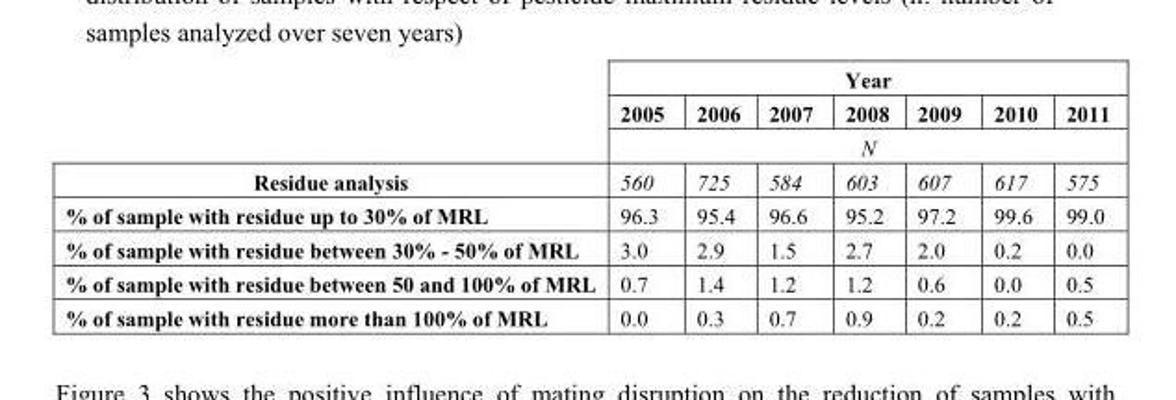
<table><thead><tr><td rowspan="3"></td><td colspan="7">Year</td></tr><tr><td>2005</td><td>2006</td><td>2007</td><td>2008</td><td>2009</td><td>2010</td><td>2011</td></tr><tr><td colspan="7">N</td></tr></thead><tbody><tr><td>Residue analysis</td><td>560</td><td>725</td><td>584</td><td>603</td><td>607</td><td>617</td><td>575</td></tr><tr><td>% of sample with residue up to 30% of MRL</td><td>96.3</td><td>95.4</td><td>96.6</td><td>95.2</td><td>97.2</td><td>99.6</td><td>99.0</td></tr><tr><td>% of sample with residue between 30% - 50% of MRL</td><td>3.0</td><td>2.9</td><td>1.5</td><td>2.7</td><td>2.0</td><td>0.2</td><td>0.0</td></tr><tr><td>% of sample with residue between 50 and 100% of MRL</td><td>0.7</td><td>1.4</td><td>1.2</td><td>1.2</td><td>0.6</td><td>0.0</td><td>0.5</td></tr><tr><td>% of sample with residue more than 100% of MRL</td><td>0.0</td><td>0.3</td><td>0.7</td><td>0.9</td><td>0.2</td><td>0.2</td><td>0.5</td></tr></tbody></table>